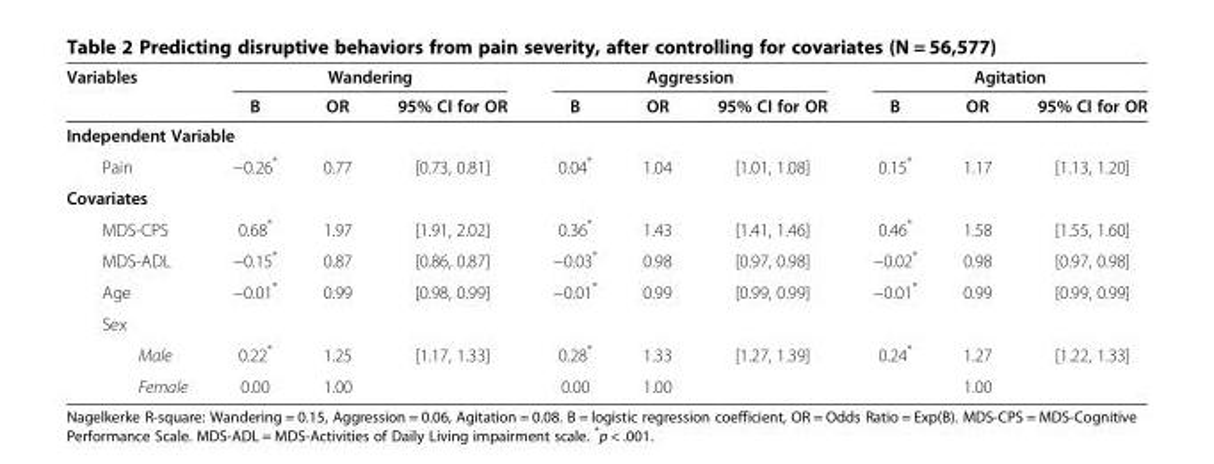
<table><thead><tr><td rowspan="2">Variables</td><td colspan="3">Wandering</td><td colspan="3">Aggression</td><td colspan="3">Agitation</td></tr><tr><td>B</td><td>OR</td><td>95% CI for OR</td><td>B</td><td>OR</td><td>95% CI for OR</td><td>B</td><td>OR</td><td>95% CI for OR</td></tr></thead><tbody><tr><td colspan="10">Independent Variable</td></tr><tr><td>Pain</td><td>−0.26*</td><td>0.77</td><td>[0.73, 0.81]</td><td>0.04*</td><td>1.04</td><td>[1.01, 1.08]</td><td>0.15*</td><td>1.17</td><td>[1.13, 1.20]</td></tr><tr><td colspan="10">Covariates</td></tr><tr><td>MDS-CPS</td><td>0.68*</td><td>1.97</td><td>[1.91, 2.02]</td><td>0.36*</td><td>1.43</td><td>[1.41, 1.46]</td><td>0.46*</td><td>1.58</td><td>[1.55, 1.60]</td></tr><tr><td>MDS-ADL</td><td>−0.15*</td><td>0.87</td><td>[0.86, 0.87]</td><td>−0.03*</td><td>0.98</td><td>[0.97, 0.98]</td><td>−0.02*</td><td>0.98</td><td>[0.97, 0.98]</td></tr><tr><td>Age</td><td>−0.01*</td><td>0.99</td><td>[0.98, 0.99]</td><td>−0.01*</td><td>0.99</td><td>[0.99, 0.99]</td><td>−0.01*</td><td>0.99</td><td>[0.99, 0.99]</td></tr><tr><td colspan="10">Sex</td></tr><tr><td>Male</td><td>0.22*</td><td>1.25</td><td>[1.17, 1.33]</td><td>0.28*</td><td>1.33</td><td>[1.27, 1.39]</td><td>0.24*</td><td>1.27</td><td>[1.22, 1.33]</td></tr><tr><td>Female</td><td>0.00</td><td>1.00</td><td></td><td>0.00</td><td>1.00</td><td></td><td></td><td>1.00</td><td></td></tr></tbody></table>